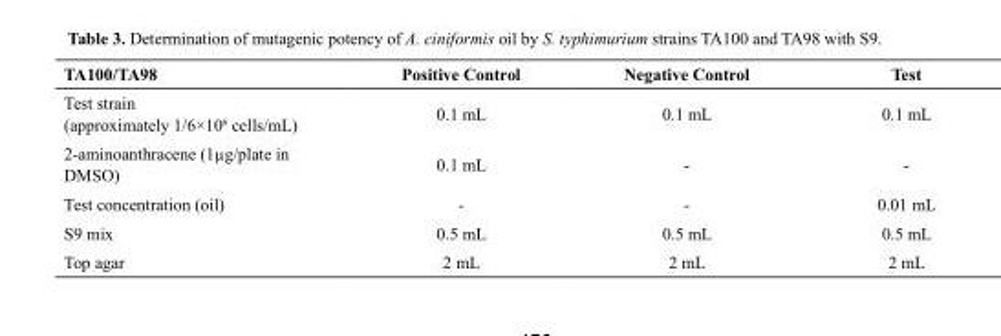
<table><thead><tr><td>Test</td><td>Negative Control</td><td>Positive Control</td><td>TA100/TA98</td></tr></thead><tbody><tr><td>0.1 mL</td><td>0.1 mL</td><td>0.1 mL</td><td>Test strain (approximately 1/6×10<sup>6</sup> cells/mL)</td></tr><tr><td>-</td><td>-</td><td>0.1 mL</td><td>2-aminoanthracene (1µg/plate in DMSO)</td></tr><tr><td>0.01 mL</td><td>-</td><td>-</td><td>Test concentration (oil)</td></tr><tr><td>0.5 mL</td><td>0.5 mL</td><td>0.5 mL</td><td>S9 mix</td></tr><tr><td>2 mL</td><td>2 mL</td><td>2 mL</td><td>Top agar</td></tr></tbody></table>